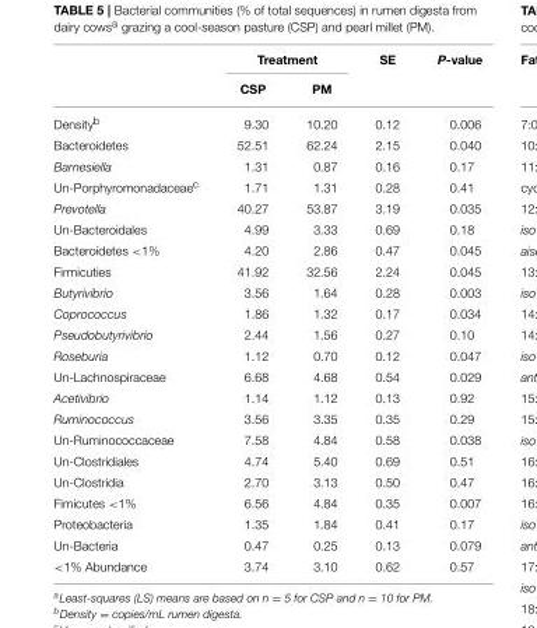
<table><thead><tr><td rowspan="2"></td><td colspan="2">Treatment</td><td rowspan="2">SE</td><td rowspan="2">P-value</td></tr><tr><td>CSP</td><td>PM</td></tr></thead><tbody><tr><td>Density<sup>b</sup></td><td>9.30</td><td>10.20</td><td>0.12</td><td>0.006</td></tr><tr><td>Bacteroidetes</td><td>52.51</td><td>62.24</td><td>2.15</td><td>0.040</td></tr><tr><td>Barnesiella</td><td>1.31</td><td>0.87</td><td>0.16</td><td>0.17</td></tr><tr><td>Un-Porphyromonadaceae<sup>c</sup></td><td>1.71</td><td>1.31</td><td>0.28</td><td>0.41</td></tr><tr><td>Prevotella</td><td>40.27</td><td>53.87</td><td>3.19</td><td>0.035</td></tr><tr><td>Un-Bacteroidales</td><td>4.99</td><td>3.33</td><td>0.69</td><td>0.18</td></tr><tr><td>Bacteroidetes &lt;1%</td><td>4.20</td><td>2.86</td><td>0.47</td><td>0.045</td></tr><tr><td>Firmicuties</td><td>41.92</td><td>32.56</td><td>2.24</td><td>0.045</td></tr><tr><td>Butyrivibrio</td><td>3.56</td><td>1.64</td><td>0.28</td><td>0.003</td></tr><tr><td>Coprococcus</td><td>1.86</td><td>1.32</td><td>0.17</td><td>0.034</td></tr><tr><td>Pseudobutyrivibrio</td><td>2.44</td><td>1.56</td><td>0.27</td><td>0.10</td></tr><tr><td>Roseburia</td><td>1.12</td><td>0.70</td><td>0.12</td><td>0.047</td></tr><tr><td>Un-Lachnospiraceae</td><td>6.68</td><td>4.68</td><td>0.54</td><td>0.029</td></tr><tr><td>Acetivibrio</td><td>1.14</td><td>1.12</td><td>0.13</td><td>0.92</td></tr><tr><td>Ruminococcus</td><td>3.56</td><td>3.35</td><td>0.35</td><td>0.29</td></tr><tr><td>Un-Ruminococcaceae</td><td>7.58</td><td>4.84</td><td>0.58</td><td>0.038</td></tr><tr><td>Un-Clostridiales</td><td>4.74</td><td>5.40</td><td>0.69</td><td>0.51</td></tr><tr><td>Un-Clostridia</td><td>2.70</td><td>3.13</td><td>0.50</td><td>0.47</td></tr><tr><td>Fimicutes &lt;1%</td><td>6.56</td><td>4.84</td><td>0.35</td><td>0.007</td></tr><tr><td>Proteobacteria</td><td>1.35</td><td>1.84</td><td>0.41</td><td>0.17</td></tr><tr><td>Un-Bacteria</td><td>0.47</td><td>0.25</td><td>0.13</td><td>0.079</td></tr><tr><td>&lt;1% Abundance</td><td>3.74</td><td>3.10</td><td>0.62</td><td>0.57</td></tr></tbody></table>